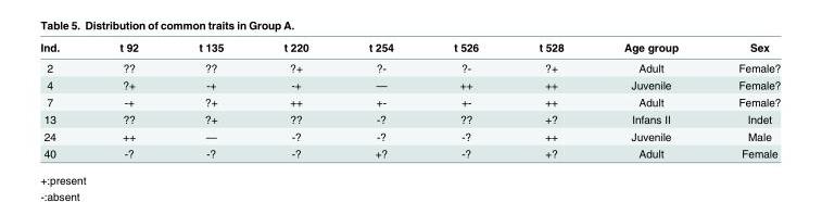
<table><thead><tr><td>Ind.</td><td>t 92</td><td>t 135</td><td>t 220</td><td>t 254</td><td>t 526</td><td>t 528</td><td>Age group</td><td>Sex</td></tr></thead><tbody><tr><td>2</td><td>??</td><td>??</td><td>?+</td><td>?-</td><td>?-</td><td>?+</td><td>Adult</td><td>Female?</td></tr><tr><td>4</td><td>?+</td><td>-+</td><td>-+</td><td>—</td><td>++</td><td>++</td><td>Juvenile</td><td>Female?</td></tr><tr><td>7</td><td>-+</td><td>?+</td><td>++</td><td>+-</td><td>+-</td><td>++</td><td>Adult</td><td>Female?</td></tr><tr><td>13</td><td>??</td><td>?+</td><td>??</td><td>-?</td><td>??</td><td>+?</td><td>Infans II</td><td>Indet</td></tr><tr><td>24</td><td>++</td><td>—</td><td>-?</td><td>-?</td><td>-?</td><td>++</td><td>Juvenile</td><td>Male</td></tr><tr><td>40</td><td>-?</td><td>-?</td><td>-?</td><td>+?</td><td>-?</td><td>+?</td><td>Adult</td><td>Female</td></tr></tbody></table>